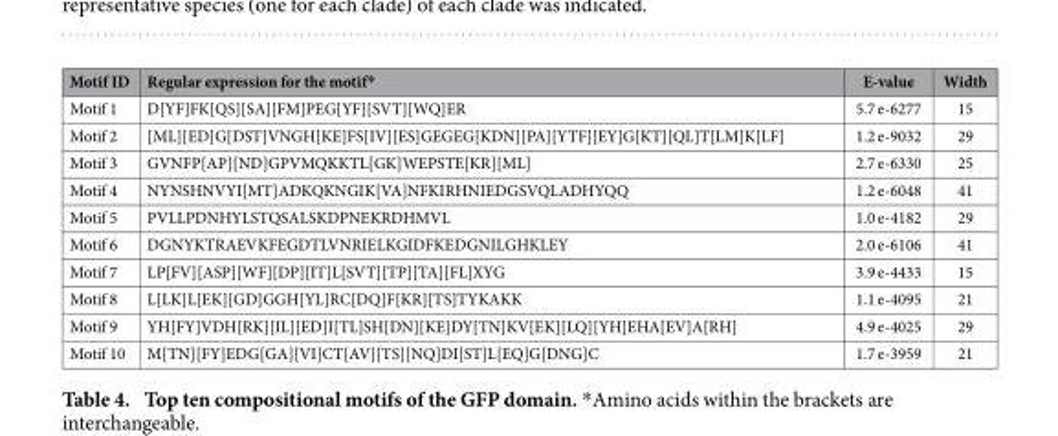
<table><thead><tr><td>Motif ID</td><td>Regular expression for the motif*</td><td>E-value</td><td>Width</td></tr></thead><tbody><tr><td>Motif 1</td><td>D[YF]FK[QS][SA][FM]PEG[YF][SVT][WQ]ER</td><td>5.7 e-6277</td><td>15</td></tr><tr><td>Motif 2</td><td>[ML][ED]G[DST]VNGH[KE]FS[IV][ES]GEGEG[KDN][PA][YTF][EY]G[KT][QL]T[LM]K[LF]</td><td>1.2 e-9032</td><td>29</td></tr><tr><td>Motif 3</td><td>GVNFP[AP][ND]GPVMQKKTL[GK]WEPSTE[KR][ML]</td><td>2.7 e-6330</td><td>25</td></tr><tr><td>Motif 4</td><td>NYNSHNVYI[MT]ADKQKNGIK[VA]NFKIRHNIEDGSVQLADHYQQ</td><td>1.2 e-6048</td><td>41</td></tr><tr><td>Motif 5</td><td>PVLLPDNHYLSTQSALSKDPNEKRDHMVL</td><td>1.0 e-4182</td><td>29</td></tr><tr><td>Motif 6</td><td>DGNYKTRAEVKFEGDTLVNRIELKGIDFKEDGNILGHKLEY</td><td>2.0 e-6106</td><td>41</td></tr><tr><td>Motif 7</td><td>LP[FV][ASP][WF][DP][IT]L[SVT][TP][TA][FL]XYG</td><td>3.9 e-4433</td><td>15</td></tr><tr><td>Motif 8</td><td>L[LK]L[EK][GD]GGH[YL]RC[DQ]F[KR][TS]TYKAKK</td><td>1.1 e-4095</td><td>21</td></tr><tr><td>Motif 9</td><td>YH[FY]VDH[RK][IL][ED]I[TL]SH[DN][KE]DY[TN]KV[EK][LQ][YH]EHA[EV]A[RH]</td><td>4.9 e-4025</td><td>29</td></tr><tr><td>Motif 10</td><td>M[TN][FY]EDG[GA][VI]CT[AV][TS][NQ]DI[ST]L[EQ]G[DNG]C</td><td>1.7 e-3959</td><td>21</td></tr></tbody></table>